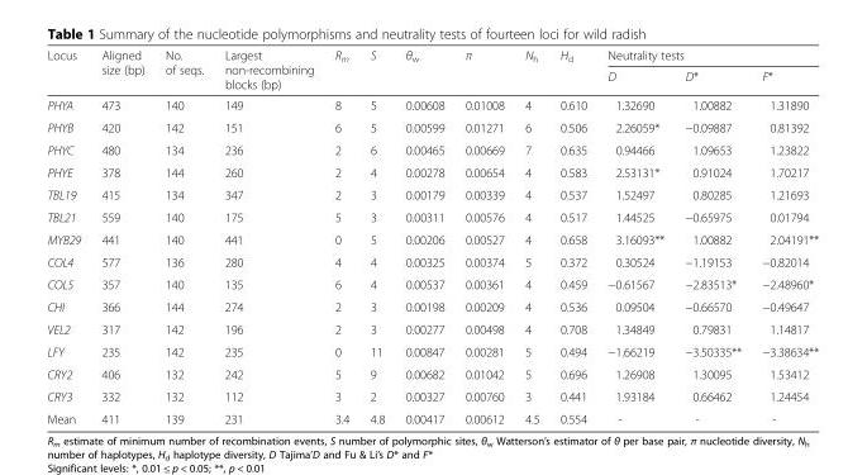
<table><thead><tr><td rowspan="2">Locus</td><td rowspan="2">Aligned size (bp)</td><td rowspan="2">No. of seqs.</td><td rowspan="2">Largest non-recombining blocks (bp)</td><td rowspan="2">R<sub>m</sub></td><td rowspan="2">S</td><td rowspan="2">θ<sub>w</sub></td><td rowspan="2">π</td><td rowspan="2">N<sub>h</sub></td><td rowspan="2">H<sub>d</sub></td><td colspan="3">Neutrality tests</td></tr><tr><td>D</td><td>D*</td><td>F*</td></tr></thead><tbody><tr><td>PHYA</td><td>473</td><td>140</td><td>149</td><td>8</td><td>5</td><td>0.00608</td><td>0.01008</td><td>4</td><td>0.610</td><td>1.32690</td><td>1.00882</td><td>1.31890</td></tr><tr><td>PHYB</td><td>420</td><td>142</td><td>151</td><td>6</td><td>5</td><td>0.00599</td><td>0.01271</td><td>6</td><td>0.506</td><td>2.26059*</td><td>−0.09887</td><td>0.81392</td></tr><tr><td>PHYC</td><td>480</td><td>134</td><td>236</td><td>2</td><td>6</td><td>0.00465</td><td>0.00669</td><td>7</td><td>0.635</td><td>0.94466</td><td>1.09653</td><td>1.23822</td></tr><tr><td>PHYE</td><td>378</td><td>144</td><td>260</td><td>2</td><td>4</td><td>0.00278</td><td>0.00654</td><td>4</td><td>0.583</td><td>2.53131*</td><td>0.91024</td><td>1.70217</td></tr><tr><td>TBL19</td><td>415</td><td>134</td><td>347</td><td>2</td><td>3</td><td>0.00179</td><td>0.00339</td><td>4</td><td>0.537</td><td>1.52497</td><td>0.80285</td><td>1.21693</td></tr><tr><td>TBL21</td><td>559</td><td>140</td><td>175</td><td>5</td><td>3</td><td>0.00311</td><td>0.00576</td><td>4</td><td>0.517</td><td>1.44525</td><td>−0.65975</td><td>0.01794</td></tr><tr><td>MYB29</td><td>441</td><td>140</td><td>441</td><td>0</td><td>5</td><td>0.00206</td><td>0.00527</td><td>4</td><td>0.658</td><td>3.16093**</td><td>1.00882</td><td>2.04191**</td></tr><tr><td>COL4</td><td>577</td><td>136</td><td>280</td><td>4</td><td>4</td><td>0.00325</td><td>0.00374</td><td>5</td><td>0.372</td><td>0.30524</td><td>−1.19153</td><td>−0.82014</td></tr><tr><td>COL5</td><td>357</td><td>140</td><td>135</td><td>6</td><td>4</td><td>0.00537</td><td>0.00361</td><td>4</td><td>0.459</td><td>−0.61567</td><td>−2.83513*</td><td>−2.48960*</td></tr><tr><td>CHI</td><td>366</td><td>144</td><td>274</td><td>2</td><td>3</td><td>0.00198</td><td>0.00209</td><td>4</td><td>0.536</td><td>0.09504</td><td>−0.66570</td><td>−0.49647</td></tr><tr><td>VEL2</td><td>317</td><td>142</td><td>196</td><td>2</td><td>3</td><td>0.00277</td><td>0.00498</td><td>4</td><td>0.708</td><td>1.34849</td><td>0.79831</td><td>1.14817</td></tr><tr><td>LFY</td><td>235</td><td>142</td><td>235</td><td>0</td><td>11</td><td>0.00847</td><td>0.00281</td><td>5</td><td>0.494</td><td>−1.66219</td><td>−3.50335**</td><td>−3.38634**</td></tr><tr><td>CRY2</td><td>406</td><td>132</td><td>242</td><td>5</td><td>9</td><td>0.00682</td><td>0.01042</td><td>5</td><td>0.696</td><td>1.26908</td><td>1.30095</td><td>1.53412</td></tr><tr><td>CRY3</td><td>332</td><td>132</td><td>112</td><td>3</td><td>2</td><td>0.00327</td><td>0.00760</td><td>3</td><td>0.441</td><td>1.93184</td><td>0.66462</td><td>1.24454</td></tr><tr><td>Mean</td><td>411</td><td>139</td><td>231</td><td>3.4</td><td>4.8</td><td>0.00417</td><td>0.00612</td><td>4.5</td><td>0.554</td><td>-</td><td>-</td><td>-</td></tr></tbody></table>